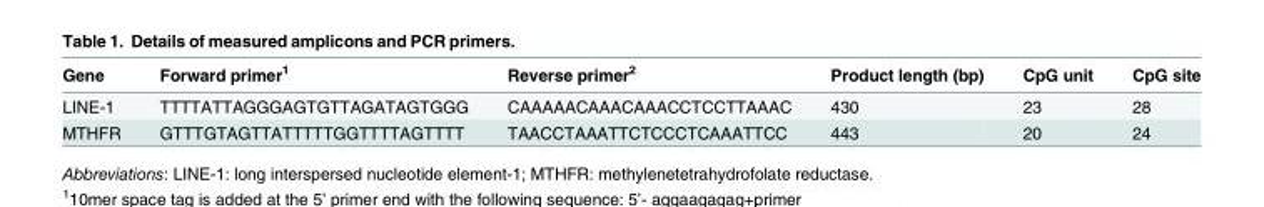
<table><thead><tr><td>Gene</td><td>Forward primer<sup>1</sup></td><td>Reverse primer<sup>2</sup></td><td>Product length (bp)</td><td>CpG unit</td><td>CpG site</td></tr></thead><tbody><tr><td>LINE-1</td><td>TTTTATTAGGGAGTGTTAGATAGTGGG</td><td>CAAAAACAAACAAACCTCCTTAAAC</td><td>430</td><td>23</td><td>28</td></tr><tr><td>MTHFR</td><td>GTTTGTAGTTATTTTTGGTTTTAGTTTT</td><td>TAACCTAAATTCTCCCTCAAATTCC</td><td>443</td><td>20</td><td>24</td></tr></tbody></table>